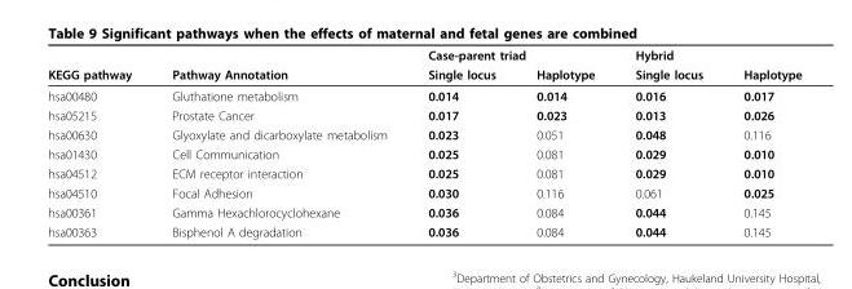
<table><thead><tr><td rowspan="2">KEGG pathway</td><td rowspan="2">Pathway Annotation</td><td colspan="2">Case-parent triad</td><td colspan="2">Hybrid</td></tr><tr><td>Single locus</td><td>Haplotype</td><td>Single locus</td><td>Haplotype</td></tr></thead><tbody><tr><td>hsa00480</td><td>Gluthatione metabolism</td><td>0.014</td><td>0.014</td><td>0.016</td><td>0.017</td></tr><tr><td>hsa05215</td><td>Prostate Cancer</td><td>0.017</td><td>0.023</td><td>0.013</td><td>0.026</td></tr><tr><td>hsa00630</td><td>Glyoxylate and dicarboxylate metabolism</td><td>0.023</td><td>0.051</td><td>0.048</td><td>0.116</td></tr><tr><td>hsa01430</td><td>Cell Communication</td><td>0.025</td><td>0.081</td><td>0.029</td><td>0.010</td></tr><tr><td>hsa04512</td><td>ECM receptor interaction</td><td>0.025</td><td>0.081</td><td>0.029</td><td>0.010</td></tr><tr><td>hsa04510</td><td>Focal Adhesion</td><td>0.030</td><td>0.116</td><td>0.061</td><td>0.025</td></tr><tr><td>hsa00361</td><td>Gamma Hexachlorocyclohexane</td><td>0.036</td><td>0.084</td><td>0.044</td><td>0.145</td></tr><tr><td>hsa00363</td><td>Bisphenol A degradation</td><td>0.036</td><td>0.084</td><td>0.044</td><td>0.145</td></tr></tbody></table>